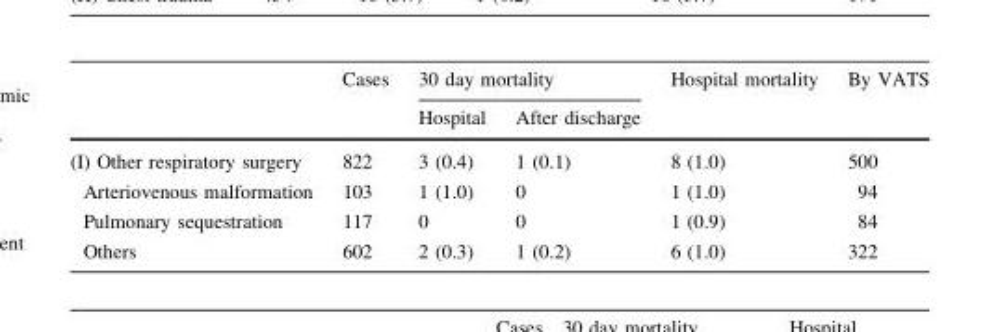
<table><thead><tr><td rowspan="2"></td><td rowspan="2">Cases</td><td colspan="2">30 day mortality</td><td rowspan="2">Hospital mortality</td><td rowspan="2">By VATS</td></tr><tr><td>Hospital</td><td>After discharge</td></tr></thead><tbody><tr><td>(I) Other respiratory surgery</td><td>822</td><td>3 (0.4)</td><td>1 (0.1)</td><td>8 (1.0)</td><td>500</td></tr><tr><td>Arteriovenous malformation</td><td>103</td><td>1 (1.0)</td><td>0</td><td>1 (1.0)</td><td>94</td></tr><tr><td>Pulmonary sequestration</td><td>117</td><td>0</td><td>0</td><td>1 (0.9)</td><td>84</td></tr><tr><td>Others</td><td>602</td><td>2 (0.3)</td><td>1 (0.2)</td><td>6 (1.0)</td><td>322</td></tr></tbody></table>